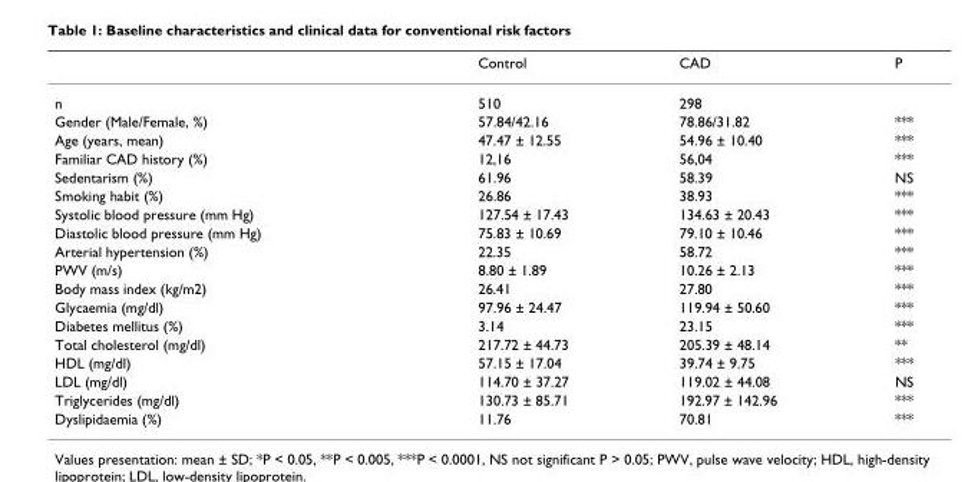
<table><thead><tr><td></td><td>Control</td><td>CAD</td><td>P</td></tr></thead><tbody><tr><td>n</td><td>510</td><td>298</td><td></td></tr><tr><td>Gender (Male/Female, %)</td><td>57.84/42.16</td><td>78.86/31.82</td><td>***</td></tr><tr><td>Age (years, mean)</td><td>47.47 ± 12.55</td><td>54.96 ± 10.40</td><td>***</td></tr><tr><td>Familiar CAD history (%)</td><td>12,16</td><td>56,04</td><td>***</td></tr><tr><td>Sedentarism (%)</td><td>61.96</td><td>58.39</td><td>NS</td></tr><tr><td>Smoking habit (%)</td><td>26.86</td><td>38.93</td><td>***</td></tr><tr><td>Systolic blood pressure (mm Hg)</td><td>127.54 ± 17.43</td><td>134.63 ± 20.43</td><td>***</td></tr><tr><td>Diastolic blood pressure (mm Hg)</td><td>75.83 ± 10.69</td><td>79.10 ± 10.46</td><td>***</td></tr><tr><td>Arterial hypertension (%)</td><td>22.35</td><td>58.72</td><td>***</td></tr><tr><td>PWV (m/s)</td><td>8.80 ± 1.89</td><td>10.26 ± 2.13</td><td>***</td></tr><tr><td>Body mass index (kg/m2)</td><td>26.41</td><td>27.80</td><td>***</td></tr><tr><td>Glycaemia (mg/dl)</td><td>97.96 ± 24.47</td><td>119.94 ± 50.60</td><td>***</td></tr><tr><td>Diabetes mellitus (%)</td><td>3.14</td><td>23.15</td><td>***</td></tr><tr><td>Total cholesterol (mg/dl)</td><td>217.72 ± 44.73</td><td>205.39 ± 48.14</td><td>**</td></tr><tr><td>HDL (mg/dl)</td><td>57.15 ± 17.04</td><td>39.74 ± 9.75</td><td>***</td></tr><tr><td>LDL (mg/dl)</td><td>114.70 ± 37.27</td><td>119.02 ± 44.08</td><td>NS</td></tr><tr><td>Triglycerides (mg/dl)</td><td>130.73 ± 85.71</td><td>192.97 ± 142.96</td><td>***</td></tr><tr><td>Dyslipidaemia (%)</td><td>11.76</td><td>70.81</td><td>***</td></tr></tbody></table>